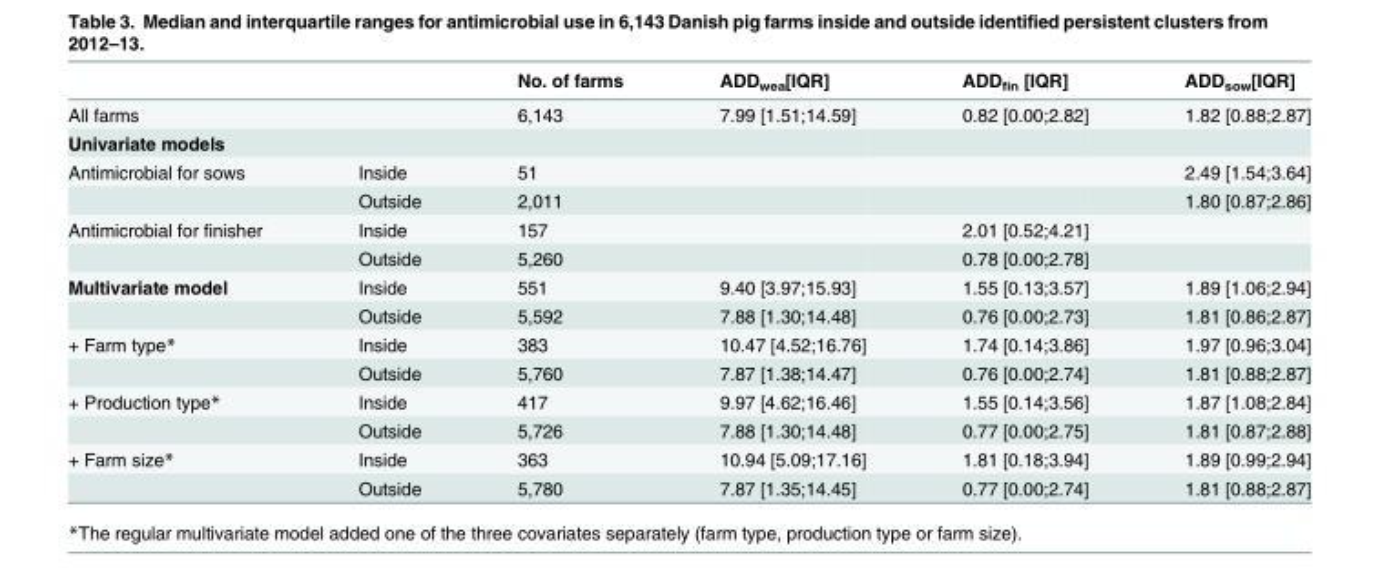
<table><thead><tr><td></td><td></td><td>No. of farms</td><td>ADD<sub>wea</sub>[IQR]</td><td>ADD<sub>fin</sub> [IQR]</td><td>ADD<sub>sow</sub>[IQR]</td></tr></thead><tbody><tr><td>All farms</td><td></td><td>6,143</td><td>7.99 [1.51;14.59]</td><td>0.82 [0.00;2.82]</td><td>1.82 [0.88;2.87]</td></tr><tr><td colspan="6">Univariate models</td></tr><tr><td rowspan="2">Antimicrobial for sows</td><td>Inside</td><td>51</td><td></td><td></td><td>2.49 [1.54;3.64]</td></tr><tr><td>Outside</td><td>2,011</td><td></td><td></td><td>1.80 [0.87;2.86]</td></tr><tr><td rowspan="2">Antimicrobial for finisher</td><td>Inside</td><td>157</td><td></td><td>2.01 [0.52;4.21]</td><td></td></tr><tr><td>Outside</td><td>5,260</td><td></td><td>0.78 [0.00;2.78]</td><td></td></tr><tr><td rowspan="2">Multivariate model</td><td>Inside</td><td>551</td><td>9.40 [3.97;15.93]</td><td>1.55 [0.13;3.57]</td><td>1.89 [1.06;2.94]</td></tr><tr><td>Outside</td><td>5,592</td><td>7.88 [1.30;14.48]</td><td>0.76 [0.00;2.73]</td><td>1.81 [0.86;2.87]</td></tr><tr><td rowspan="2">+ Farm type*</td><td>Inside</td><td>383</td><td>10.47 [4.52;16.76]</td><td>1.74 [0.14;3.86]</td><td>1.97 [0.96;3.04]</td></tr><tr><td>Outside</td><td>5,760</td><td>7.87 [1.38;14.47]</td><td>0.76 [0.00;2.74]</td><td>1.81 [0.88;2.87]</td></tr><tr><td rowspan="2">+ Production type*</td><td>Inside</td><td>417</td><td>9.97 [4.62;16.46]</td><td>1.55 [0.14;3.56]</td><td>1.87 [1.08;2.84]</td></tr><tr><td>Outside</td><td>5,726</td><td>7.88 [1.30;14.48]</td><td>0.77 [0.00;2.75]</td><td>1.81 [0.87;2.88]</td></tr><tr><td rowspan="2">+ Farm size*</td><td>Inside</td><td>363</td><td>10.94 [5.09;17.16]</td><td>1.81 [0.18;3.94]</td><td>1.89 [0.99;2.94]</td></tr><tr><td>Outside</td><td>5,780</td><td>7.87 [1.35;14.45]</td><td>0.77 [0.00;2.74]</td><td>1.81 [0.88;2.87]</td></tr></tbody></table>